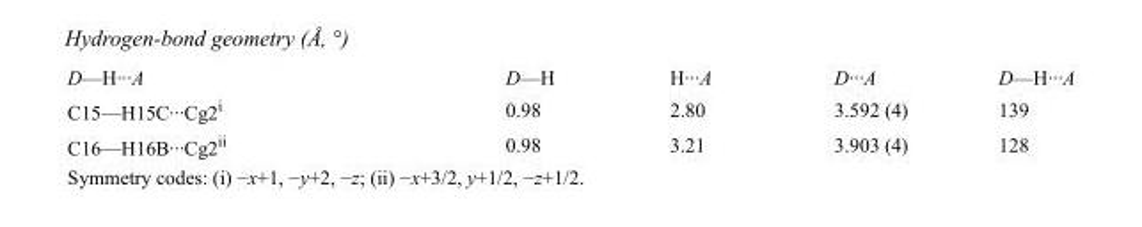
<table><tbody><tr><td>D—H···A</td><td>D—H</td><td>H···A</td><td>D···A</td><td>D—H···A</td></tr><tr><td>C15—H15C···Cg2<sup>i</sup></td><td>0.98</td><td>2.80</td><td>3.592 (4)</td><td>139</td></tr><tr><td>C16—H16B···Cg2<sup>ii</sup></td><td>0.98</td><td>3.21</td><td>3.903 (4)</td><td>128</td></tr></tbody></table>